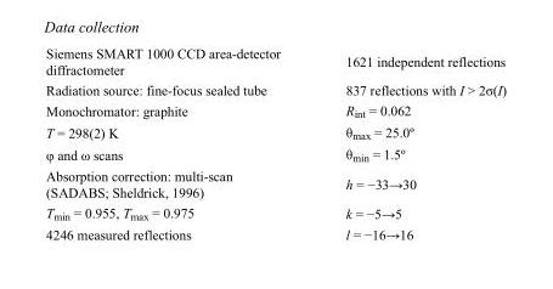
<table><tbody><tr><td>Siemens SMART 1000 CCD area-detector diffractometer</td><td>1621 independent reflections</td></tr><tr><td>Radiation source: fine-focus sealed tube</td><td>837 reflections with I &gt; 2σ(I)</td></tr><tr><td>Monochromator: graphite</td><td>R<sub>int</sub> = 0.062</td></tr><tr><td>T = 298(2) K</td><td>θ<sub>max</sub> = 25.0º</td></tr><tr><td>φ and ω scans</td><td>θ<sub>min</sub> = 1.5º</td></tr><tr><td>Absorption correction: multi-scan (SADABS; Sheldrick, 1996)</td><td>h = −33→30</td></tr><tr><td>T<sub>min</sub> = 0.955, T<sub>max</sub> = 0.975</td><td>k = −5→5</td></tr><tr><td>4246 measured reflections</td><td>l = −16→16</td></tr></tbody></table>